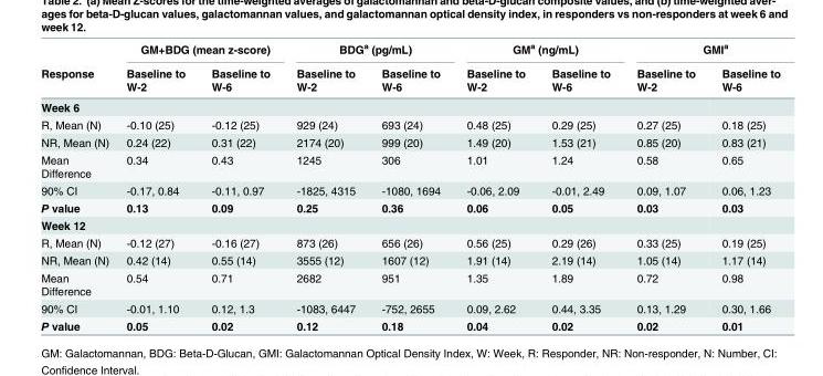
<table><thead><tr><td rowspan="2">Response</td><td colspan="2">GM+BDG (mean z-score)</td><td colspan="2">BDG<sup>a</sup> (pg/mL)</td><td colspan="2">GM<sup>a</sup> (ng/mL)</td><td colspan="2">GMI<sup>a</sup></td></tr><tr><td>Baseline to W-2</td><td>Baseline to W-6</td><td>Baseline to W-2</td><td>Baseline to W-6</td><td>Baseline to W-2</td><td>Baseline to W-6</td><td>Baseline to W-2</td><td>Baseline to W-6</td></tr></thead><tbody><tr><td colspan="9">Week 6</td></tr><tr><td>R, Mean (N)</td><td>-0.10 (25)</td><td>-0.12 (25)</td><td>929 (24)</td><td>693 (24)</td><td>0.48 (25)</td><td>0.29 (25)</td><td>0.27 (25)</td><td>0.18 (25)</td></tr><tr><td>NR, Mean (N)</td><td>0.24 (22)</td><td>0.31 (22)</td><td>2174 (20)</td><td>999 (20)</td><td>1.49 (20)</td><td>1.53 (21)</td><td>0.85 (20)</td><td>0.83 (21)</td></tr><tr><td>Mean Difference</td><td>0.34</td><td>0.43</td><td>1245</td><td>306</td><td>1.01</td><td>1.24</td><td>0.58</td><td>0.65</td></tr><tr><td>90% CI</td><td>-0.17, 0.84</td><td>-0.11, 0.97</td><td>-1825, 4315</td><td>-1080, 1694</td><td>-0.06, 2.09</td><td>-0.01, 2.49</td><td>0.09, 1.07</td><td>0.06, 1.23</td></tr><tr><td>P value</td><td>0.13</td><td>0.09</td><td>0.25</td><td>0.36</td><td>0.06</td><td>0.05</td><td>0.03</td><td>0.03</td></tr><tr><td colspan="9">Week 12</td></tr><tr><td>R, Mean (N)</td><td>-0.12 (27)</td><td>-0.16 (27)</td><td>873 (26)</td><td>656 (26)</td><td>0.56 (25)</td><td>0.29 (26)</td><td>0.33 (25)</td><td>0.19 (25)</td></tr><tr><td>NR, Mean (N)</td><td>0.42 (14)</td><td>0.55 (14)</td><td>3555 (12)</td><td>1607 (12)</td><td>1.91 (14)</td><td>2.19 (14)</td><td>1.05 (14)</td><td>1.17 (14)</td></tr><tr><td>Mean Difference</td><td>0.54</td><td>0.71</td><td>2682</td><td>951</td><td>1.35</td><td>1.89</td><td>0.72</td><td>0.98</td></tr><tr><td>90% CI</td><td>-0.01, 1.10</td><td>0.12, 1.3</td><td>-1083, 6447</td><td>-752, 2655</td><td>0.09, 2.62</td><td>0.44, 3.35</td><td>0.13, 1.29</td><td>0.30, 1.66</td></tr><tr><td>P value</td><td>0.05</td><td>0.02</td><td>0.12</td><td>0.18</td><td>0.04</td><td>0.02</td><td>0.02</td><td>0.01</td></tr></tbody></table>